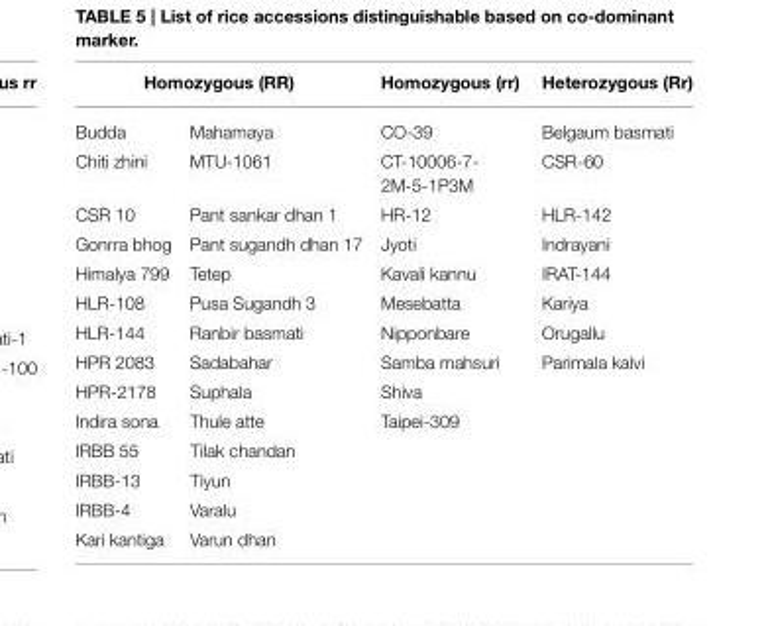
<table><thead><tr><td colspan="2">Homozygous (RR)</td><td rowspan="2">Homozygous (rr) CO-39</td><td rowspan="2">Heterozygous (Rr) Belgaum basmati</td></tr><tr><td>Budda</td><td>Mahamaya</td></tr></thead><tbody><tr><td>Chiti zhini</td><td>MTU-1061</td><td>CT-10006-7- 2M-5-1P3M</td><td>CSR-60</td></tr><tr><td>CSR 10</td><td>Pant sankar dhan 1</td><td>HR-12</td><td>HLR-142</td></tr><tr><td>Gonrra bhog</td><td>Pant sugandh dhan 17</td><td>Jyoti</td><td>Indrayani</td></tr><tr><td>Himalya 799</td><td>Tetep</td><td>Kavali kannu</td><td>IRAT-144</td></tr><tr><td>HLR-108</td><td>Pusa Sugandh 3</td><td>Mesebatta</td><td>Kariya</td></tr><tr><td>HLR-144</td><td>Ranbir basmati</td><td>Nipponbare</td><td>Orugallu</td></tr><tr><td>HPR 2083</td><td>Sadabahar</td><td>Samba mahsuri</td><td>Parimala kalvi</td></tr><tr><td>HPR-2178</td><td>Suphala</td><td>Shiva</td><td></td></tr><tr><td>Indira sona</td><td>Thule atte</td><td>Taipei-309</td><td></td></tr><tr><td>IRBB 55</td><td>Tilak chandan</td><td></td><td></td></tr><tr><td>IRBB-13</td><td>Tiyun</td><td></td><td></td></tr><tr><td>IRBB-4</td><td>Varalu</td><td></td><td></td></tr><tr><td>Kari kantiga</td><td>Varun dhan</td><td></td><td></td></tr></tbody></table>